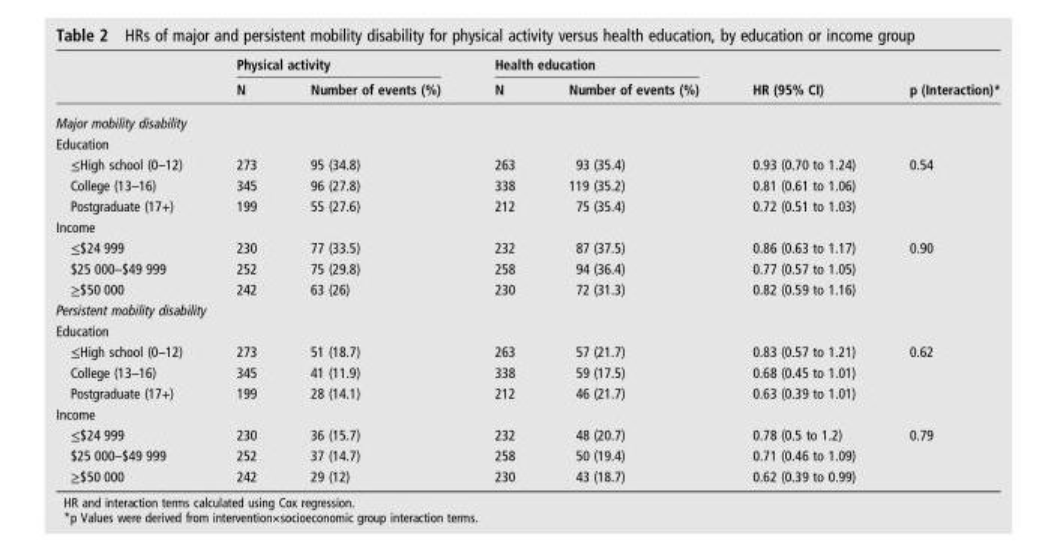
<table><thead><tr><td rowspan="2"></td><td colspan="2">Physical activity</td><td colspan="2">Health education</td><td rowspan="2">HR (95% CI)</td><td rowspan="2">p (Interaction)*</td></tr><tr><td>N</td><td>Number of events (%)</td><td>N</td><td>Number of events (%)</td></tr></thead><tbody><tr><td colspan="7">Major mobility disability</td></tr><tr><td colspan="7">Education</td></tr><tr><td>≤High school (0–12)</td><td>273</td><td>95 (34.8)</td><td>263</td><td>93 (35.4)</td><td>0.93 (0.70 to 1.24)</td><td>0.54</td></tr><tr><td>College (13–16)</td><td>345</td><td>96 (27.8)</td><td>338</td><td>119 (35.2)</td><td>0.81 (0.61 to 1.06)</td><td></td></tr><tr><td>Postgraduate (17+)</td><td>199</td><td>55 (27.6)</td><td>212</td><td>75 (35.4)</td><td>0.72 (0.51 to 1.03)</td><td></td></tr><tr><td colspan="7">Income</td></tr><tr><td>≤$24 999</td><td>230</td><td>77 (33.5)</td><td>232</td><td>87 (37.5)</td><td>0.86 (0.63 to 1.17)</td><td>0.90</td></tr><tr><td>$25 000–$49 999</td><td>252</td><td>75 (29.8)</td><td>258</td><td>94 (36.4)</td><td>0.77 (0.57 to 1.05)</td><td></td></tr><tr><td>≥$50 000</td><td>242</td><td>63 (26)</td><td>230</td><td>72 (31.3)</td><td>0.82 (0.59 to 1.16)</td><td></td></tr><tr><td colspan="7">Persistent mobility disability</td></tr><tr><td colspan="7">Education</td></tr><tr><td>≤High school (0–12)</td><td>273</td><td>51 (18.7)</td><td>263</td><td>57 (21.7)</td><td>0.83 (0.57 to 1.21)</td><td>0.62</td></tr><tr><td>College (13–16)</td><td>345</td><td>41 (11.9)</td><td>338</td><td>59 (17.5)</td><td>0.68 (0.45 to 1.01)</td><td></td></tr><tr><td>Postgraduate (17+)</td><td>199</td><td>28 (14.1)</td><td>212</td><td>46 (21.7)</td><td>0.63 (0.39 to 1.01)</td><td></td></tr><tr><td colspan="7">Income</td></tr><tr><td>≤$24 999</td><td>230</td><td>36 (15.7)</td><td>232</td><td>48 (20.7)</td><td>0.78 (0.5 to 1.2)</td><td>0.79</td></tr><tr><td>$25 000–$49 999</td><td>252</td><td>37 (14.7)</td><td>258</td><td>50 (19.4)</td><td>0.71 (0.46 to 1.09)</td><td></td></tr><tr><td>≥$50 000</td><td>242</td><td>29 (12)</td><td>230</td><td>43 (18.7)</td><td>0.62 (0.39 to 0.99)</td><td></td></tr></tbody></table>